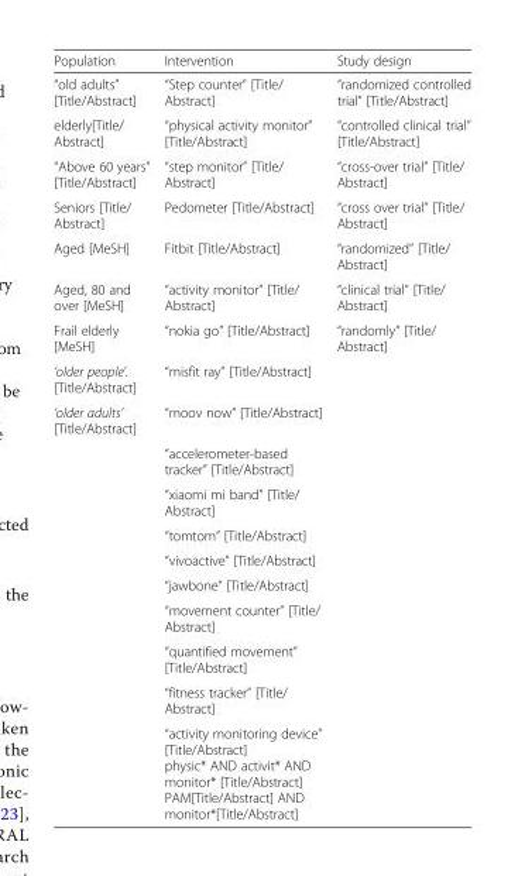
<table><thead><tr><td>Population</td><td>Intervention</td><td>Study design</td></tr></thead><tbody><tr><td>“old adults” [Title/Abstract]</td><td>“Step counter” [Title/ Abstract]</td><td>“randomized controlled trial” [Title/Abstract]</td></tr><tr><td>elderly[Title/ Abstract]</td><td>“physical activity monitor” [Title/Abstract]</td><td>“controlled clinical trial” [Title/Abstract]</td></tr><tr><td>“Above 60 years” [Title/Abstract]</td><td>“step monitor” [Title/ Abstract]</td><td>“cross-over trial” [Title/ Abstract]</td></tr><tr><td>Seniors [Title/ Abstract]</td><td>Pedometer [Title/Abstract]</td><td>“cross over trial” [Title/ Abstract]</td></tr><tr><td>Aged [MeSH]</td><td>Fitbit [Title/Abstract]</td><td>“randomized” [Title/ Abstract]</td></tr><tr><td>Aged, 80 and over [MeSH]</td><td>“activity monitor” [Title/ Abstract]</td><td>“clinical trial” [Title/ Abstract]</td></tr><tr><td>Frail elderly [MeSH]</td><td>“nokia go” [Title/Abstract]</td><td>“randomly” [Title/ Abstract]</td></tr><tr><td>‘older people’. [Title/Abstract]</td><td>“misfit ray” [Title/Abstract]</td><td></td></tr><tr><td rowspan="10">‘older adults’ [Title/Abstract]</td><td>“moov now” [Title/Abstract]</td><td></td></tr><tr><td>“accelerometer-based tracker” [Title/Abstract]</td><td></td></tr><tr><td>“xiaomi mi band” [Title/ Abstract]</td><td></td></tr><tr><td>“tomtom” [Title/Abstract]</td><td></td></tr><tr><td>“vivoactive” [Title/Abstract]</td><td></td></tr><tr><td>“jawbone” [Title/Abstract]</td><td></td></tr><tr><td>“movement counter” [Title/ Abstract]</td><td></td></tr><tr><td>“quantified movement” [Title/Abstract]</td><td></td></tr><tr><td>“fitness tracker” [Title/ Abstract]</td><td></td></tr><tr><td>“activity monitoring device” [Title/Abstract] physic* AND activit* AND monitor* [Title/Abstract] PAM[Title/Abstract] AND monitor*[Title/Abstract]</td><td></td></tr></tbody></table>